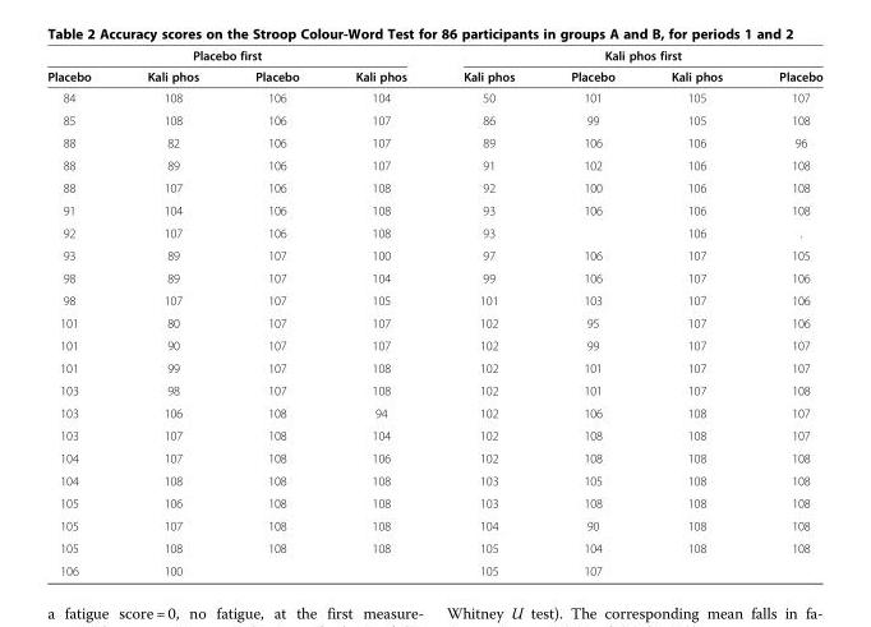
<table><thead><tr><td colspan="4">Placebo first</td><td colspan="4">Kali phos first</td></tr><tr><td>Placebo</td><td>Kali phos</td><td>Placebo</td><td>Kali phos</td><td>Kali phos</td><td>Placebo</td><td>Kali phos</td><td>Placebo</td></tr></thead><tbody><tr><td>84</td><td>108</td><td>106</td><td>104</td><td>50</td><td>101</td><td>105</td><td>107</td></tr><tr><td>85</td><td>108</td><td>106</td><td>107</td><td>86</td><td>99</td><td>105</td><td>108</td></tr><tr><td>88</td><td>82</td><td>106</td><td>107</td><td>89</td><td>106</td><td>106</td><td>96</td></tr><tr><td>88</td><td>89</td><td>106</td><td>107</td><td>91</td><td>102</td><td>106</td><td>108</td></tr><tr><td>88</td><td>107</td><td>106</td><td>108</td><td>92</td><td>100</td><td>106</td><td>108</td></tr><tr><td>91</td><td>104</td><td>106</td><td>108</td><td>93</td><td>106</td><td>106</td><td>108</td></tr><tr><td>92</td><td>107</td><td>106</td><td>108</td><td>93</td><td></td><td>106</td><td>.</td></tr><tr><td>93</td><td>89</td><td>107</td><td>100</td><td>97</td><td>106</td><td>107</td><td>105</td></tr><tr><td>98</td><td>89</td><td>107</td><td>104</td><td>99</td><td>106</td><td>107</td><td>106</td></tr><tr><td>98</td><td>107</td><td>107</td><td>105</td><td>101</td><td>103</td><td>107</td><td>106</td></tr><tr><td>101</td><td>80</td><td>107</td><td>107</td><td>102</td><td>95</td><td>107</td><td>106</td></tr><tr><td>101</td><td>90</td><td>107</td><td>107</td><td>102</td><td>99</td><td>107</td><td>107</td></tr><tr><td>101</td><td>99</td><td>107</td><td>108</td><td>102</td><td>101</td><td>107</td><td>107</td></tr><tr><td>103</td><td>98</td><td>107</td><td>108</td><td>102</td><td>101</td><td>107</td><td>108</td></tr><tr><td>103</td><td>106</td><td>108</td><td>94</td><td>102</td><td>106</td><td>108</td><td>107</td></tr><tr><td>103</td><td>107</td><td>108</td><td>104</td><td>102</td><td>108</td><td>108</td><td>107</td></tr><tr><td>104</td><td>107</td><td>108</td><td>106</td><td>102</td><td>108</td><td>108</td><td>108</td></tr><tr><td>104</td><td>108</td><td>108</td><td>108</td><td>103</td><td>105</td><td>108</td><td>108</td></tr><tr><td>105</td><td>106</td><td>108</td><td>108</td><td>103</td><td>108</td><td>108</td><td>108</td></tr><tr><td>105</td><td>107</td><td>108</td><td>108</td><td>104</td><td>90</td><td>108</td><td>108</td></tr><tr><td>105</td><td>108</td><td>108</td><td>108</td><td>105</td><td>104</td><td>108</td><td>108</td></tr><tr><td>106</td><td>100</td><td></td><td></td><td>105</td><td>107</td><td></td><td></td></tr></tbody></table>